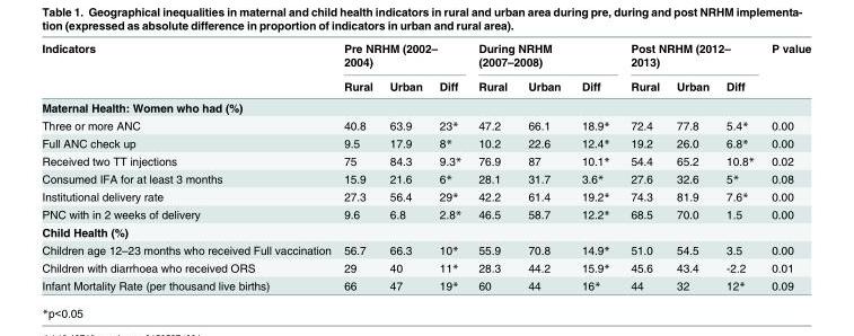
<table><thead><tr><td rowspan="2">Indicators</td><td colspan="3">Pre NRHM (2002– 2004)</td><td colspan="3">During NRHM (2007–2008)</td><td colspan="3">Post NRHM (2012– 2013)</td><td rowspan="2">P value</td></tr><tr><td>Rural</td><td>Urban</td><td>Diff</td><td>Rural</td><td>Urban</td><td>Diff</td><td>Rural</td><td>Urban</td><td>Diff</td></tr></thead><tbody><tr><td colspan="11">Maternal Health: Women who had (%)</td></tr><tr><td>Three or more ANC</td><td>40.8</td><td>63.9</td><td>23*</td><td>47.2</td><td>66.1</td><td>18.9*</td><td>72.4</td><td>77.8</td><td>5.4*</td><td>0.00</td></tr><tr><td>Full ANC check up</td><td>9.5</td><td>17.9</td><td>8*</td><td>10.2</td><td>22.6</td><td>12.4*</td><td>19.2</td><td>26.0</td><td>6.8*</td><td>0.00</td></tr><tr><td>Received two TT injections</td><td>75</td><td>84.3</td><td>9.3*</td><td>76.9</td><td>87</td><td>10.1*</td><td>54.4</td><td>65.2</td><td>10.8*</td><td>0.02</td></tr><tr><td>Consumed IFA for at least 3 months</td><td>15.9</td><td>21.6</td><td>6*</td><td>28.1</td><td>31.7</td><td>3.6*</td><td>27.6</td><td>32.6</td><td>5*</td><td>0.08</td></tr><tr><td>Institutional delivery rate</td><td>27.3</td><td>56.4</td><td>29*</td><td>42.2</td><td>61.4</td><td>19.2*</td><td>74.3</td><td>81.9</td><td>7.6*</td><td>0.00</td></tr><tr><td>PNC with in 2 weeks of delivery</td><td>9.6</td><td>6.8</td><td>2.8*</td><td>46.5</td><td>58.7</td><td>12.2*</td><td>68.5</td><td>70.0</td><td>1.5</td><td>0.00</td></tr><tr><td colspan="11">Child Health (%)</td></tr><tr><td>Children age 12–23 months who received Full vaccination</td><td>56.7</td><td>66.3</td><td>10*</td><td>55.9</td><td>70.8</td><td>14.9*</td><td>51.0</td><td>54.5</td><td>3.5</td><td>0.00</td></tr><tr><td>Children with diarrhoea who received ORS</td><td>29</td><td>40</td><td>11*</td><td>28.3</td><td>44.2</td><td>15.9*</td><td>45.6</td><td>43.4</td><td>-2.2</td><td>0.01</td></tr><tr><td>Infant Mortality Rate (per thousand live births)</td><td>66</td><td>47</td><td>19*</td><td>60</td><td>44</td><td>16*</td><td>44</td><td>32</td><td>12*</td><td>0.09</td></tr></tbody></table>